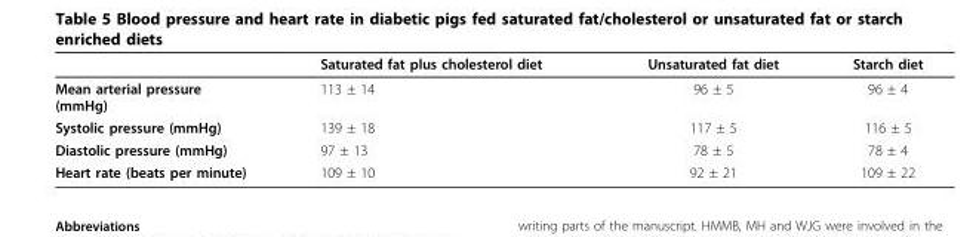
<table><thead><tr><td></td><td>Saturated fat plus cholesterol diet</td><td>Unsaturated fat diet</td><td>Starch diet</td></tr></thead><tbody><tr><td>Mean arterial pressure (mmHg)</td><td>113 ± 14</td><td>96 ± 5</td><td>96 ± 4</td></tr><tr><td>Systolic pressure (mmHg)</td><td>139 ± 18</td><td>117 ± 5</td><td>116 ± 5</td></tr><tr><td>Diastolic pressure (mmHg)</td><td>97 ± 13</td><td>78 ± 5</td><td>78 ± 4</td></tr><tr><td>Heart rate (beats per minute)</td><td>109 ± 10</td><td>92 ± 21</td><td>109 ± 22</td></tr></tbody></table>